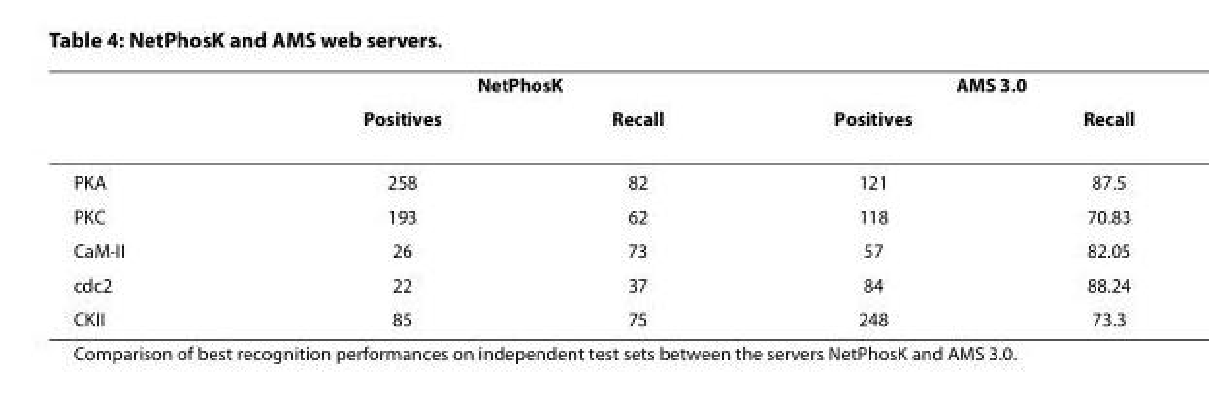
<table><thead><tr><td rowspan="2"></td><td colspan="2">NetPhosK</td><td colspan="2">AMS 3.0</td></tr><tr><td>Positives</td><td>Recall</td><td>Positives</td><td>Recall</td></tr></thead><tbody><tr><td>PKA</td><td>258</td><td>82</td><td>121</td><td>87.5</td></tr><tr><td>PKC</td><td>193</td><td>62</td><td>118</td><td>70.83</td></tr><tr><td>CaM-II</td><td>26</td><td>73</td><td>57</td><td>82.05</td></tr><tr><td>cdc2</td><td>22</td><td>37</td><td>84</td><td>88.24</td></tr><tr><td>CKII</td><td>85</td><td>75</td><td>248</td><td>73.3</td></tr></tbody></table>